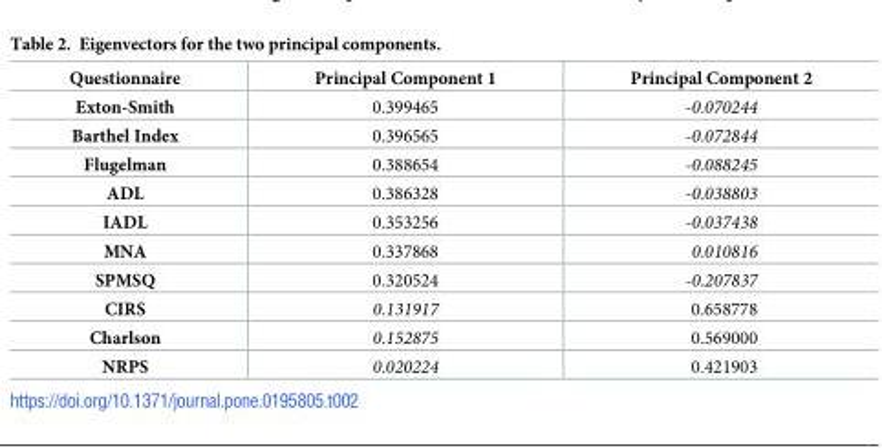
<table><thead><tr><td>Questionnaire</td><td>Principal Component 1</td><td>Principal Component 2</td></tr></thead><tbody><tr><td>Exton-Smith</td><td>0.399465</td><td>-0.070244</td></tr><tr><td>Barthel Index</td><td>0.396565</td><td>-0.072844</td></tr><tr><td>Flugelman</td><td>0.388654</td><td>-0.088245</td></tr><tr><td>ADL</td><td>0.386328</td><td>-0.038803</td></tr><tr><td>IADL</td><td>0.353256</td><td>-0.037438</td></tr><tr><td>MNA</td><td>0.337868</td><td>0.010816</td></tr><tr><td>SPMSQ</td><td>0.320524</td><td>-0.207837</td></tr><tr><td>CIRS</td><td>0.131917</td><td>0.658778</td></tr><tr><td>Charlson</td><td>0.152875</td><td>0.569000</td></tr><tr><td>NRPS</td><td>0.020224</td><td>0.421903</td></tr></tbody></table>